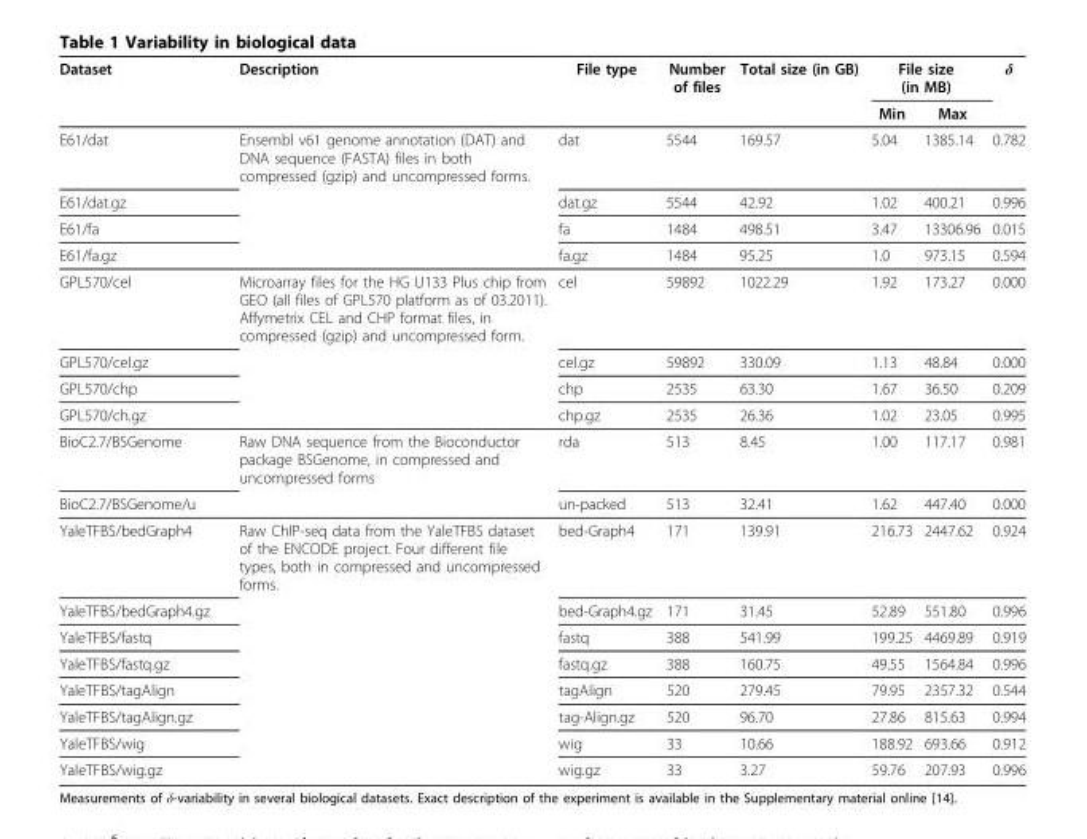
<table><thead><tr><td rowspan="2">Dataset</td><td rowspan="2">Description</td><td rowspan="2">File type</td><td rowspan="2">Number of files</td><td rowspan="2">Total size (in GB)</td><td colspan="2">File size (in MB)</td><td rowspan="2">δ</td></tr><tr><td>Min</td><td>Max</td></tr></thead><tbody><tr><td>E61/dat</td><td>Ensembl v61 genome annotation (DAT) and DNA sequence (FASTA) files in both compressed (gzip) and uncompressed forms.</td><td>dat</td><td>5544</td><td>169.57</td><td>5.04</td><td>1385.14</td><td>0.782</td></tr><tr><td>E61/dat.gz</td><td></td><td>dat.gz</td><td>5544</td><td>42.92</td><td>1.02</td><td>400.21</td><td>0.996</td></tr><tr><td>E61/fa</td><td></td><td>fa</td><td>1484</td><td>498.51</td><td>3.47</td><td>13306.96</td><td>0.015</td></tr><tr><td>E61/fa.gz</td><td></td><td>fa.gz</td><td>1484</td><td>95.25</td><td>1.0</td><td>973.15</td><td>0.594</td></tr><tr><td>GPL570/cel</td><td>Microarray files for the HG U133 Plus chip from GEO (all files of GPL570 platform as of 03.2011). Affymetrix CEL and CHP format files, in compressed (gzip) and uncompressed form.</td><td>cel</td><td>59892</td><td>1022.29</td><td>1.92</td><td>173.27</td><td>0.000</td></tr><tr><td>GPL570/cel.gz</td><td></td><td>cel.gz</td><td>59892</td><td>330.09</td><td>1.13</td><td>48.84</td><td>0.000</td></tr><tr><td>GPL570/chp</td><td></td><td>chp</td><td>2535</td><td>63.30</td><td>1.67</td><td>36.50</td><td>0.209</td></tr><tr><td>GPL570/ch.gz</td><td></td><td>chp.gz</td><td>2535</td><td>26.36</td><td>1.02</td><td>23.05</td><td>0.995</td></tr><tr><td>BioC2.7/BSGenome</td><td>Raw DNA sequence from the Bioconductor package BSGenome, in compressed and uncompressed forms</td><td>rda</td><td>513</td><td>8.45</td><td>1.00</td><td>117.17</td><td>0.981</td></tr><tr><td>BioC2.7/BSGenome/u</td><td></td><td>un-packed</td><td>513</td><td>32.41</td><td>1.62</td><td>447.40</td><td>0.000</td></tr><tr><td>YaleTFBS/bedGraph4</td><td>Raw ChIP-seq data from the YaleTFBS dataset of the ENCODE project. Four different file types, both in compressed and uncompressed forms.</td><td>bed-Graph4</td><td>171</td><td>139.91</td><td>216.73</td><td>2447.62</td><td>0.924</td></tr><tr><td>YaleTFBS/bedGraph4.gz</td><td></td><td>bed-Graph4.gz</td><td>171</td><td>31.45</td><td>52.89</td><td>551.80</td><td>0.996</td></tr><tr><td>YaleTFBS/fastq</td><td></td><td>fastq</td><td>388</td><td>541.99</td><td>199.25</td><td>4469.89</td><td>0.919</td></tr><tr><td>YaleTFBS/fastq.gz</td><td></td><td>fastq.gz</td><td>388</td><td>160.75</td><td>49.55</td><td>1564.84</td><td>0.996</td></tr><tr><td>YaleTFBS/tagAlign</td><td></td><td>tagAlign</td><td>520</td><td>279.45</td><td>79.95</td><td>2357.32</td><td>0.544</td></tr><tr><td>YaleTFBS/tagAlign.gz</td><td></td><td>tag-Align.gz</td><td>520</td><td>96.70</td><td>27.86</td><td>815.63</td><td>0.994</td></tr><tr><td>YaleTFBS/wig</td><td></td><td>wig</td><td>33</td><td>10.66</td><td>188.92</td><td>693.66</td><td>0.912</td></tr><tr><td>YaleTFBS/wig.gz</td><td></td><td>wig.gz</td><td>33</td><td>3.27</td><td>59.76</td><td>207.93</td><td>0.996</td></tr></tbody></table>